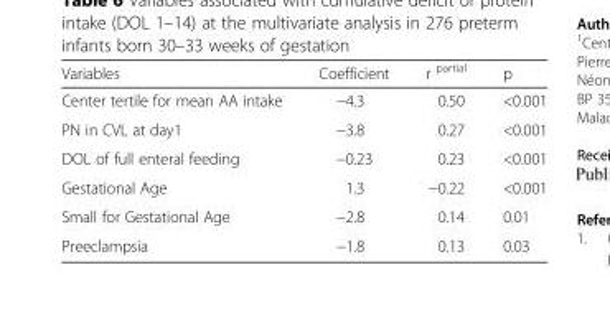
<table><thead><tr><td>Variables</td><td>Coefficient</td><td>r <sup>partial</sup></td><td>p</td></tr></thead><tbody><tr><td>Center tertile for mean AA intake</td><td>−4.3</td><td>0.50</td><td>&lt;0.001</td></tr><tr><td>PN in CVL at day1</td><td>−3.8</td><td>0.27</td><td>&lt;0.001</td></tr><tr><td>DOL of full enteral feeding</td><td>−0.23</td><td>0.23</td><td>&lt;0.001</td></tr><tr><td>Gestational Age</td><td>1.3</td><td>−0.22</td><td>&lt;0.001</td></tr><tr><td>Small for Gestational Age</td><td>−2.8</td><td>0.14</td><td>0.01</td></tr><tr><td>Preeclampsia</td><td>−1.8</td><td>0.13</td><td>0.03</td></tr></tbody></table>